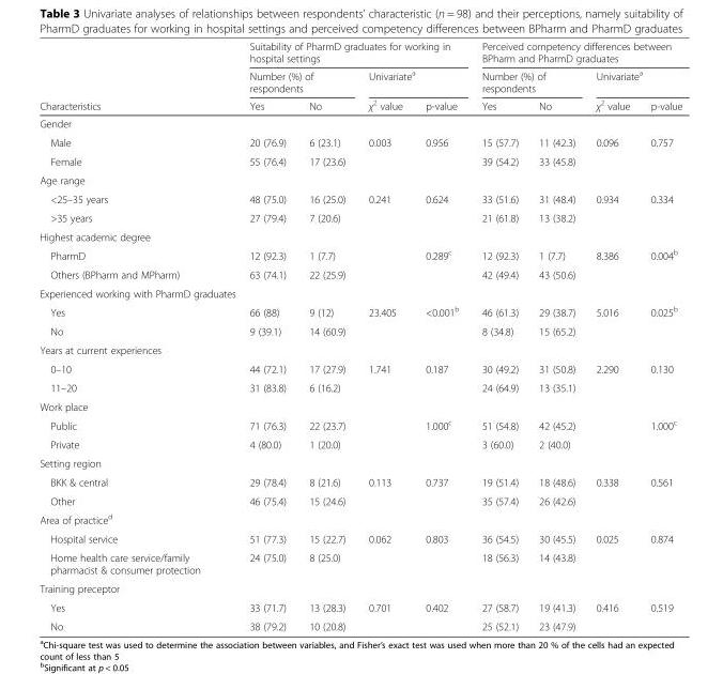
<table><thead><tr><td rowspan="3">Characteristics</td><td colspan="4">Suitability of PharmD graduates for working in hospital settings</td><td colspan="4">Perceived competency differences between BPharm and PharmD graduates</td></tr><tr><td colspan="2">Number (%) of respondents</td><td colspan="2">Univariate<sup>a</sup></td><td colspan="2">Number (%) of respondents</td><td colspan="2">Univariate<sup>a</sup></td></tr><tr><td>Yes</td><td>No</td><td>χ<sup>2</sup> value</td><td>p-value</td><td>Yes</td><td>No</td><td>χ<sup>2</sup> value</td><td>p-value</td></tr></thead><tbody><tr><td colspan="9">Gender</td></tr><tr><td>Male</td><td>20 (76.9)</td><td>6 (23.1)</td><td>0.003</td><td>0.956</td><td>15 (57.7)</td><td>11 (42.3)</td><td>0.096</td><td>0.757</td></tr><tr><td>Female</td><td>55 (76.4)</td><td>17 (23.6)</td><td></td><td></td><td>39 (54.2)</td><td>33 (45.8)</td><td></td><td></td></tr><tr><td colspan="9">Age range</td></tr><tr><td>&lt;25–35 years</td><td>48 (75.0)</td><td>16 (25.0)</td><td>0.241</td><td>0.624</td><td>33 (51.6)</td><td>31 (48.4)</td><td>0.934</td><td>0.334</td></tr><tr><td>&gt;35 years</td><td>27 (79.4)</td><td>7 (20.6)</td><td></td><td></td><td>21 (61.8)</td><td>13 (38.2)</td><td></td><td></td></tr><tr><td colspan="9">Highest academic degree</td></tr><tr><td>PharmD</td><td>12 (92.3)</td><td>1 (7.7)</td><td></td><td>0.289<sup>c</sup></td><td>12 (92.3)</td><td>1 (7.7)</td><td>8.386</td><td>0.004<sup>b</sup></td></tr><tr><td>Others (BPharm and MPharm)</td><td>63 (74.1)</td><td>22 (25.9)</td><td></td><td></td><td>42 (49.4)</td><td>43 (50.6)</td><td></td><td></td></tr><tr><td colspan="9">Experienced working with PharmD graduates</td></tr><tr><td>Yes</td><td>66 (88)</td><td>9 (12)</td><td>23.405</td><td>&lt;0.001<sup>b</sup></td><td>46 (61.3)</td><td>29 (38.7)</td><td>5.016</td><td>0.025<sup>b</sup></td></tr><tr><td>No</td><td>9 (39.1)</td><td>14 (60.9)</td><td></td><td></td><td>8 (34.8)</td><td>15 (65.2)</td><td></td><td></td></tr><tr><td colspan="9">Years at current experiences</td></tr><tr><td>0–10</td><td>44 (72.1)</td><td>17 (27.9)</td><td>1.741</td><td>0.187</td><td>30 (49.2)</td><td>31 (50.8)</td><td>2.290</td><td>0.130</td></tr><tr><td>11–20</td><td>31 (83.8)</td><td>6 (16.2)</td><td></td><td></td><td>24 (64.9)</td><td>13 (35.1)</td><td></td><td></td></tr><tr><td colspan="9">Work place</td></tr><tr><td>Public</td><td>71 (76.3)</td><td>22 (23.7)</td><td></td><td>1.000<sup>c</sup></td><td>51 (54.8)</td><td>42 (45.2)</td><td></td><td>1.000<sup>c</sup></td></tr><tr><td>Private</td><td>4 (80.0)</td><td>1 (20.0)</td><td></td><td></td><td>3 (60.0)</td><td>2 (40.0)</td><td></td><td></td></tr><tr><td colspan="9">Setting region</td></tr><tr><td>BKK &amp; central</td><td>29 (78.4)</td><td>8 (21.6)</td><td>0.113</td><td>0.737</td><td>19 (51.4)</td><td>18 (48.6)</td><td>0.338</td><td>0.561</td></tr><tr><td>Other</td><td>46 (75.4)</td><td>15 (24.6)</td><td></td><td></td><td>35 (57.4)</td><td>26 (42.6)</td><td></td><td></td></tr><tr><td colspan="9">Area of practice<sup>d</sup></td></tr><tr><td>Hospital service</td><td>51 (77.3)</td><td>15 (22.7)</td><td>0.062</td><td>0.803</td><td>36 (54.5)</td><td>30 (45.5)</td><td>0.025</td><td>0.874</td></tr><tr><td>Home health care service/family pharmacist &amp; consumer protection</td><td>24 (75.0)</td><td>8 (25.0)</td><td></td><td></td><td>18 (56.3)</td><td>14 (43.8)</td><td></td><td></td></tr><tr><td colspan="9">Training preceptor</td></tr><tr><td>Yes</td><td>33 (71.7)</td><td>13 (28.3)</td><td>0.701</td><td>0.402</td><td>27 (58.7)</td><td>19 (41.3)</td><td>0.416</td><td>0.519</td></tr><tr><td>No</td><td>38 (79.2)</td><td>10 (20.8)</td><td></td><td></td><td>25 (52.1)</td><td>23 (47.9)</td><td></td><td></td></tr></tbody></table>